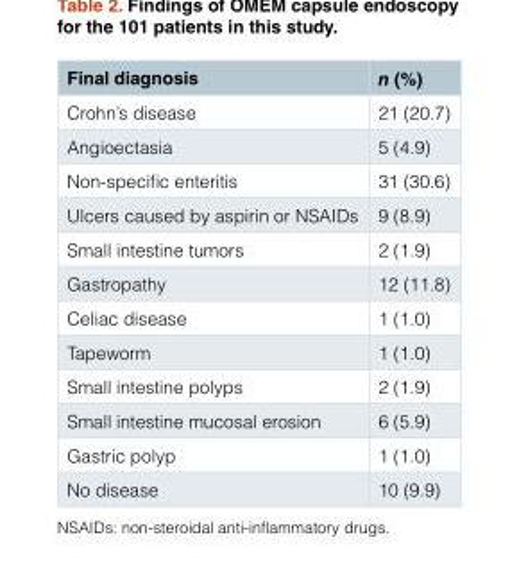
<table><thead><tr><td>Final diagnosis</td><td>n (%)</td></tr></thead><tbody><tr><td>Crohn’s disease</td><td>21 (20.7)</td></tr><tr><td>Angioectasia</td><td>5 (4.9)</td></tr><tr><td>Non-specific enteritis</td><td>31 (30.6)</td></tr><tr><td>Ulcers caused by aspirin or NSAIDs</td><td>9 (8.9)</td></tr><tr><td>Small intestine tumors</td><td>2 (1.9)</td></tr><tr><td>Gastropathy</td><td>12 (11.8)</td></tr><tr><td>Celiac disease</td><td>1 (1.0)</td></tr><tr><td>Tapeworm</td><td>1 (1.0)</td></tr><tr><td>Small intestine polyps</td><td>2 (1.9)</td></tr><tr><td>Small intestine mucosal erosion</td><td>6 (5.9)</td></tr><tr><td>Gastric polyp</td><td>1 (1.0)</td></tr><tr><td>No disease</td><td>10 (9.9)</td></tr></tbody></table>